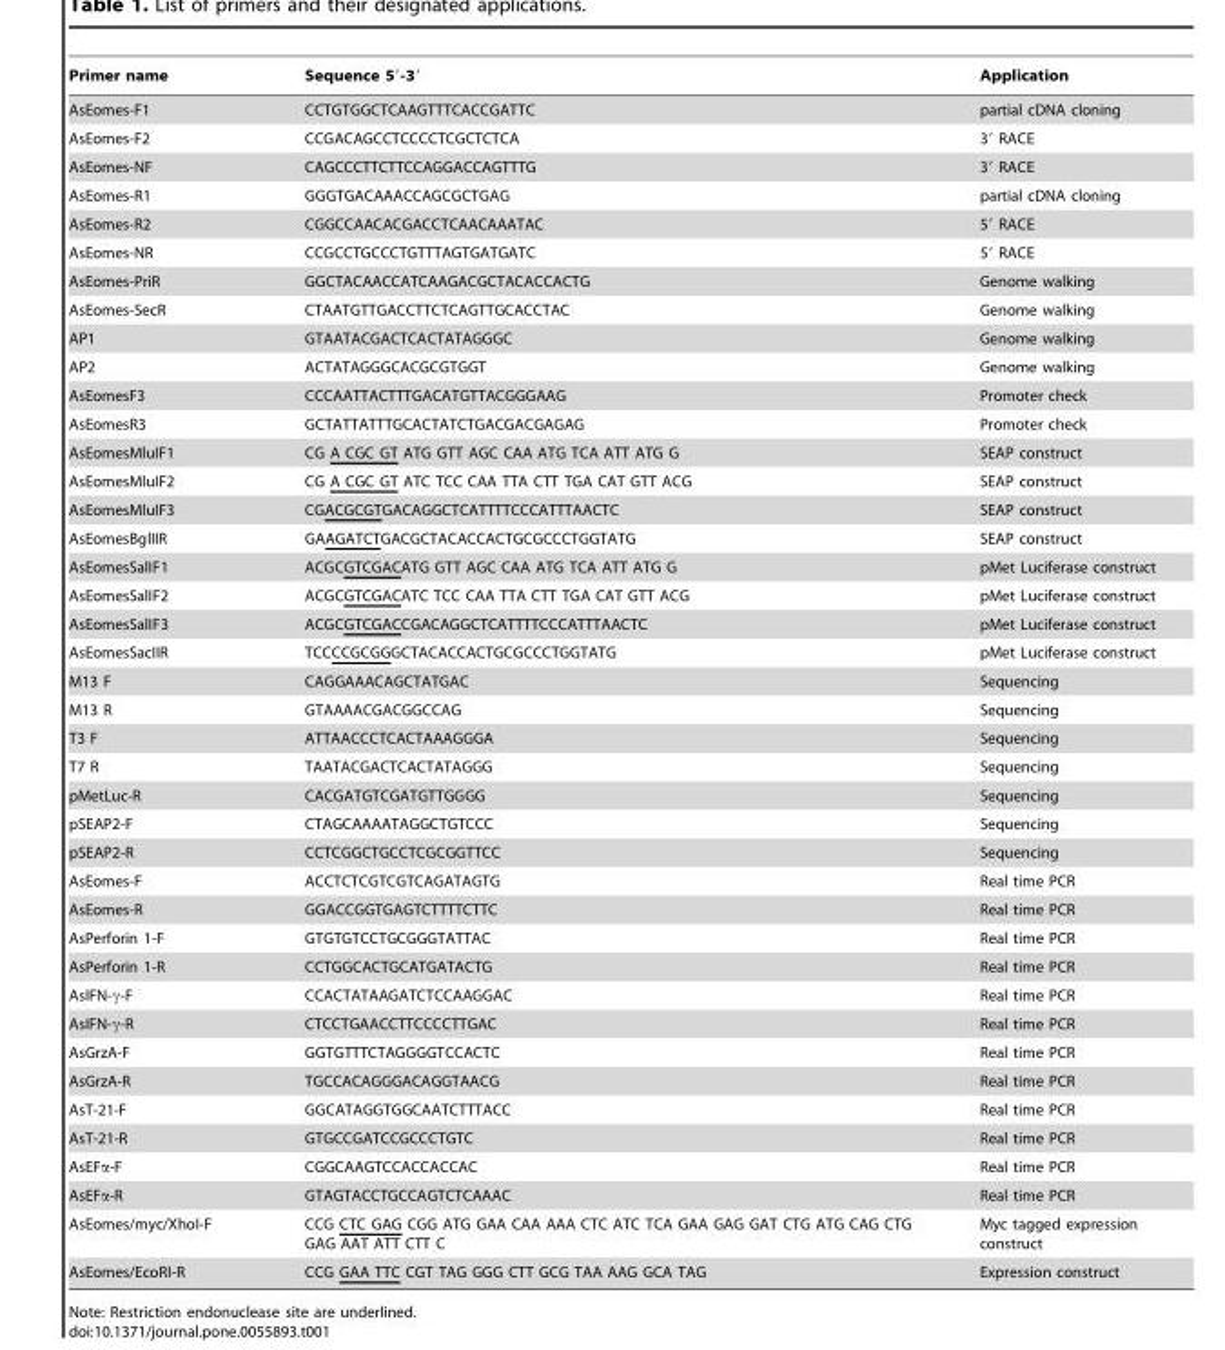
<table><thead><tr><td>Primer name</td><td>Sequence 5′-3′</td><td>Application</td></tr></thead><tbody><tr><td>AsEomes-F1</td><td>CCTGTGGCTCAAGTTTCACCGATTC</td><td>partial cDNA cloning</td></tr><tr><td>AsEomes-F2</td><td>CCGACAGCCTCCCCTCGCTCTCA</td><td>3′ RACE</td></tr><tr><td>AsEomes-NF</td><td>CAGCCCTTCTTCCAGGACCAGTTTG</td><td>3′ RACE</td></tr><tr><td>AsEomes-R1</td><td>GGGTGACAAACCAGCGCTGAG</td><td>partial cDNA cloning</td></tr><tr><td>AsEomes-R2</td><td>CGGCCAACACGACCTCAACAAATAC</td><td>5′ RACE</td></tr><tr><td>AsEomes-NR</td><td>CCGCCTGCCCTGTTTAGTGATGATC</td><td>5′ RACE</td></tr><tr><td>AsEomes-PriR</td><td>GGCTACAACCATCAAGACGCTACACCACTG</td><td>Genome walking</td></tr><tr><td>AsEomes-SecR</td><td>CTAATGTTGACCTTCTCAGTTGCACCTAC</td><td>Genome walking</td></tr><tr><td>AP1</td><td>GTAATACGACTCACTATAGGGC</td><td>Genome walking</td></tr><tr><td>AP2</td><td>ACTATAGGGCACGCGTGGT</td><td>Genome walking</td></tr><tr><td>AsEomesF3</td><td>CCCAATTACTTTGACATGTTACGGGAAG</td><td>Promoter check</td></tr><tr><td>AsEomesR3</td><td>GCTATTATTTGCACTATCTGACGACGAGAG</td><td>Promoter check</td></tr><tr><td>AsEomesMluIF1</td><td>CG A CGC GT ATG GTT AGC CAA ATG TCA ATT ATG G</td><td>SEAP construct</td></tr><tr><td>AsEomesMluIF2</td><td>CG A CGC GT ATC TCC CAA TTA CTT TGA CAT GTT ACG</td><td>SEAP construct</td></tr><tr><td>AsEomesMluIF3</td><td>CGACGCGTGACAGGCTCATTTTCCCATTTAACTC</td><td>SEAP construct</td></tr><tr><td>AsEomesBglIIR</td><td>GAAGATCTGACGCTACACCACTGCGCCCTGGTATG</td><td>SEAP construct</td></tr><tr><td>AsEomesSalIF1</td><td>ACGCGTCGACATG GTT AGC CAA ATG TCA ATT ATG G</td><td>pMet Luciferase construct</td></tr><tr><td>AsEomesSalIF2</td><td>ACGCGTCGACATC TCC CAA TTA CTT TGA CAT GTT ACG</td><td>pMet Luciferase construct</td></tr><tr><td>AsEomesSalIF3</td><td>ACGCGTCGACCGACAGGCTCATTTTCCCATTTAACTC</td><td>pMet Luciferase construct</td></tr><tr><td>AsEomesSacIIR</td><td>TCCCCGCGGGCTACACCACTGCGCCCTGGTATG</td><td>pMet Luciferase construct</td></tr><tr><td>M13 F</td><td>CAGGAAACAGCTATGAC</td><td>Sequencing</td></tr><tr><td>M13 R</td><td>GTAAAACGACGGCCAG</td><td>Sequencing</td></tr><tr><td>T3 F</td><td>ATTAACCCTCACTAAAGGGA</td><td>Sequencing</td></tr><tr><td>T7 R</td><td>TAATACGACTCACTATAGGG</td><td>Sequencing</td></tr><tr><td>pMetLuc-R</td><td>CACGATGTCGATGTTGGGG</td><td>Sequencing</td></tr><tr><td>pSEAP2-F</td><td>CTAGCAAAATAGGCTGTCCC</td><td>Sequencing</td></tr><tr><td>pSEAP2-R</td><td>CCTCGGCTGCCTCGCGGTTCC</td><td>Sequencing</td></tr><tr><td>AsEomes-F</td><td>ACCTCTCGTCGTCAGATAGTG</td><td>Real time PCR</td></tr><tr><td>AsEomes-R</td><td>GGACCGGTGAGTCTTTTCTTC</td><td>Real time PCR</td></tr><tr><td>AsPerforin 1-F</td><td>GTGTGTCCTGCGGGTATTAC</td><td>Real time PCR</td></tr><tr><td>AsPerforin 1-R</td><td>CCTGGCACTGCATGATACTG</td><td>Real time PCR</td></tr><tr><td>AsIFN-γ-F</td><td>CCACTATAAGATCTCCAAGGAC</td><td>Real time PCR</td></tr><tr><td>AsIFN-γ-R</td><td>CTCCTGAACCTTCCCCTTGAC</td><td>Real time PCR</td></tr><tr><td>AsGrzA-F</td><td>GGTGTTTCTAGGGGTCCACTC</td><td>Real time PCR</td></tr><tr><td>AsGrzA-R</td><td>TGCCACAGGGACAGGTAACG</td><td>Real time PCR</td></tr><tr><td>AsT-21-F</td><td>GGCATAGGTGGCAATCTTTACC</td><td>Real time PCR</td></tr><tr><td>AsT-21-R</td><td>GTGCCGATCCGCCCTGTC</td><td>Real time PCR</td></tr><tr><td>AsEFα-F</td><td>CGGCAAGTCCACCACCAC</td><td>Real time PCR</td></tr><tr><td>AsEFα-R</td><td>GTAGTACCTGCCAGTCTCAAAC</td><td>Real time PCR</td></tr><tr><td>AsEomes/myc/XhoI-F</td><td>CCG CTC GAG CGG ATG GAA CAA AAA CTC ATC TCA GAA GAG GAT CTG ATG CAG CTG GAG AAT ATT CTT C</td><td>Myc tagged expression construct</td></tr><tr><td>AsEomes/EcoRI-R</td><td>CCG GAA TTC CGT TAG GGG CTT GCG TAA AAG GCA TAG</td><td>Expression construct</td></tr></tbody></table>